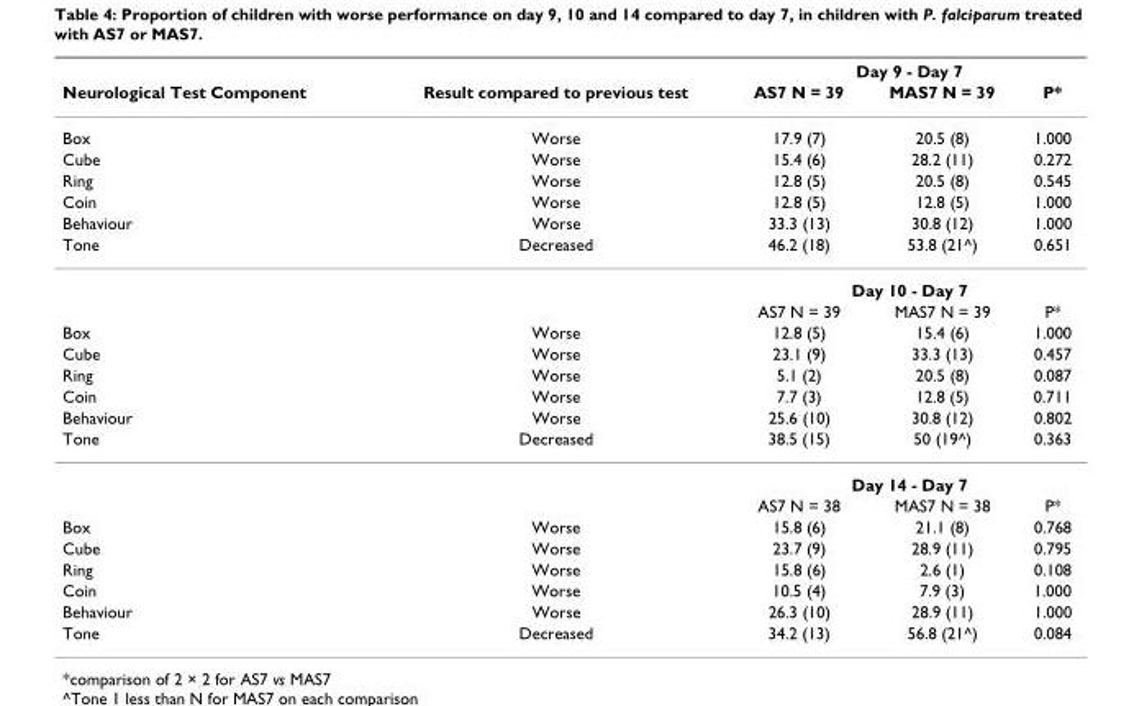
<table><thead><tr><td rowspan="2">Neurological Test Component</td><td rowspan="2">Result compared to previous test</td><td colspan="3">Day 9 - Day 7</td></tr><tr><td>AS7 N = 39</td><td>MAS7 N = 39</td><td>P*</td></tr></thead><tbody><tr><td>Box</td><td>Worse</td><td>17.9 (7)</td><td>20.5 (8)</td><td>1.000</td></tr><tr><td>Cube</td><td>Worse</td><td>15.4 (6)</td><td>28.2 (11)</td><td>0.272</td></tr><tr><td>Ring</td><td>Worse</td><td>12.8 (5)</td><td>20.5 (8)</td><td>0.545</td></tr><tr><td>Coin</td><td>Worse</td><td>12.8 (5)</td><td>12.8 (5)</td><td>1.000</td></tr><tr><td>Behaviour</td><td>Worse</td><td>33.3 (13)</td><td>30.8 (12)</td><td>1.000</td></tr><tr><td rowspan="3">Tone</td><td>Decreased</td><td>46.2 (18)</td><td>53.8 (21^)</td><td>0.651</td></tr><tr><td></td><td colspan="3">Day 10 - Day 7</td></tr><tr><td></td><td>AS7 N = 39</td><td>MAS7 N = 39</td><td>P*</td></tr><tr><td>Box</td><td>Worse</td><td>12.8 (5)</td><td>15.4 (6)</td><td>1.000</td></tr><tr><td>Cube</td><td>Worse</td><td>23.1 (9)</td><td>33.3 (13)</td><td>0.457</td></tr><tr><td>Ring</td><td>Worse</td><td>5.1 (2)</td><td>20.5 (8)</td><td>0.087</td></tr><tr><td>Coin</td><td>Worse</td><td>7.7 (3)</td><td>12.8 (5)</td><td>0.711</td></tr><tr><td>Behaviour</td><td>Worse</td><td>25.6 (10)</td><td>30.8 (12)</td><td>0.802</td></tr><tr><td rowspan="3">Tone</td><td>Decreased</td><td>38.5 (15)</td><td>50 (19^)</td><td>0.363</td></tr><tr><td></td><td colspan="3">Day 14 - Day 7</td></tr><tr><td></td><td>AS7 N = 38</td><td>MAS7 N = 38</td><td>P*</td></tr><tr><td>Box</td><td>Worse</td><td>15.8 (6)</td><td>21.1 (8)</td><td>0.768</td></tr><tr><td>Cube</td><td>Worse</td><td>23.7 (9)</td><td>28.9 (11)</td><td>0.795</td></tr><tr><td>Ring</td><td>Worse</td><td>15.8 (6)</td><td>2.6 (1)</td><td>0.108</td></tr><tr><td>Coin</td><td>Worse</td><td>10.5 (4)</td><td>7.9 (3)</td><td>1.000</td></tr><tr><td>Behaviour</td><td>Worse</td><td>26.3 (10)</td><td>28.9 (11)</td><td>1.000</td></tr><tr><td>Tone</td><td>Decreased</td><td>34.2 (13)</td><td>56.8 (21^)</td><td>0.084</td></tr></tbody></table>